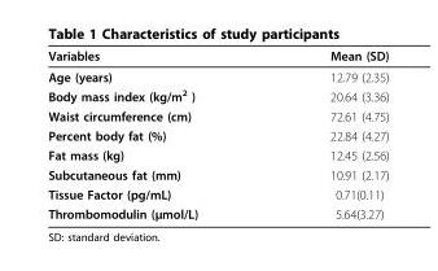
<table><thead><tr><td>Variables</td><td>Mean (SD)</td></tr></thead><tbody><tr><td>Age (years)</td><td>12.79 (2.35)</td></tr><tr><td>Body mass index (kg/m<sup>2</sup> )</td><td>20.64 (3.36)</td></tr><tr><td>Waist circumference (cm)</td><td>72.61 (4.75)</td></tr><tr><td>Percent body fat (%)</td><td>22.84 (4.27)</td></tr><tr><td>Fat mass (kg)</td><td>12.45 (2.56)</td></tr><tr><td>Subcutaneous fat (mm)</td><td>10.91 (2.17)</td></tr><tr><td>Tissue Factor (pg/mL)</td><td>0.71(0.11)</td></tr><tr><td>Thrombomodulin (μmol/L)</td><td>5.64(3.27)</td></tr></tbody></table>